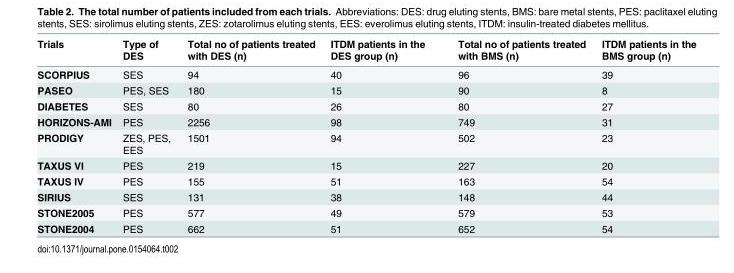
<table><thead><tr><td>Trials</td><td>Type of DES</td><td>Total no of patients treated with DES (n)</td><td>ITDM patients in the DES group (n)</td><td>Total no of patients treated with BMS (n)</td><td>ITDM patients in the BMS group (n)</td></tr></thead><tbody><tr><td>SCORPIUS</td><td>SES</td><td>94</td><td>40</td><td>96</td><td>39</td></tr><tr><td>PASEO</td><td>PES, SES</td><td>180</td><td>15</td><td>90</td><td>8</td></tr><tr><td>DIABETES</td><td>SES</td><td>80</td><td>26</td><td>80</td><td>27</td></tr><tr><td>HORIZONS-AMI</td><td>PES</td><td>2256</td><td>98</td><td>749</td><td>31</td></tr><tr><td>PRODIGY</td><td>ZES, PES, EES</td><td>1501</td><td>94</td><td>502</td><td>23</td></tr><tr><td>TAXUS VI</td><td>PES</td><td>219</td><td>15</td><td>227</td><td>20</td></tr><tr><td>TAXUS IV</td><td>PES</td><td>155</td><td>51</td><td>163</td><td>54</td></tr><tr><td>SIRIUS</td><td>SES</td><td>131</td><td>38</td><td>148</td><td>44</td></tr><tr><td>STONE2005</td><td>PES</td><td>577</td><td>49</td><td>579</td><td>53</td></tr><tr><td>STONE2004</td><td>PES</td><td>662</td><td>51</td><td>652</td><td>54</td></tr></tbody></table>